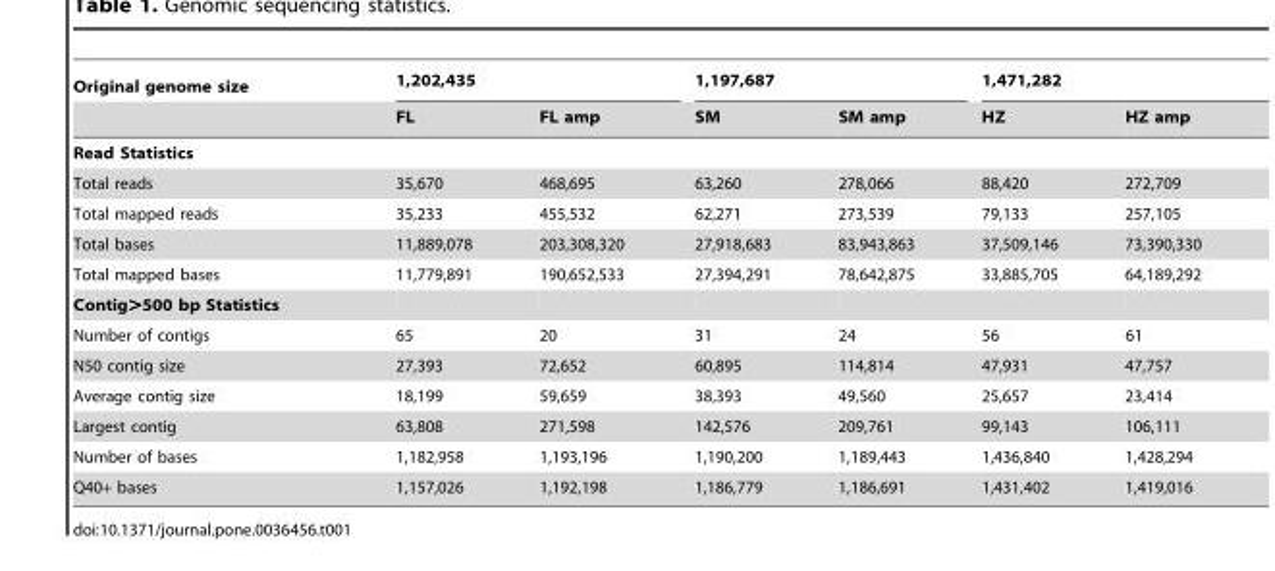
<table><thead><tr><td rowspan="2">Original genome size</td><td colspan="2">1,202,435</td><td colspan="2">1,197,687</td><td colspan="2">1,471,282</td></tr><tr><td>FL</td><td>FL amp</td><td>SM</td><td>SM amp</td><td>HZ</td><td>HZ amp</td></tr></thead><tbody><tr><td colspan="7">Read Statistics</td></tr><tr><td>Total reads</td><td>35,670</td><td>468,695</td><td>63,260</td><td>278,066</td><td>88,420</td><td>272,709</td></tr><tr><td>Total mapped reads</td><td>35,233</td><td>455,532</td><td>62,271</td><td>273,539</td><td>79,133</td><td>257,105</td></tr><tr><td>Total bases</td><td>11,889,078</td><td>203,308,320</td><td>27,918,683</td><td>83,943,863</td><td>37,509,146</td><td>73,390,330</td></tr><tr><td>Total mapped bases</td><td>11,779,891</td><td>190,652,533</td><td>27,394,291</td><td>78,642,875</td><td>33,885,705</td><td>64,189,292</td></tr><tr><td colspan="7">Contig&gt;500 bp Statistics</td></tr><tr><td>Number of contigs</td><td>65</td><td>20</td><td>31</td><td>24</td><td>56</td><td>61</td></tr><tr><td>N50 contig size</td><td>27,393</td><td>72,652</td><td>60,895</td><td>114,814</td><td>47,931</td><td>47,757</td></tr><tr><td>Average contig size</td><td>18,199</td><td>59,659</td><td>38,393</td><td>49,560</td><td>25,657</td><td>23,414</td></tr><tr><td>Largest contig</td><td>63,808</td><td>271,598</td><td>142,576</td><td>209,761</td><td>99,143</td><td>106,111</td></tr><tr><td>Number of bases</td><td>1,182,958</td><td>1,193,196</td><td>1,190,200</td><td>1,189,443</td><td>1,436,840</td><td>1,428,294</td></tr><tr><td>Q40+ bases</td><td>1,157,026</td><td>1,192,198</td><td>1,186,779</td><td>1,186,691</td><td>1,431,402</td><td>1,419,016</td></tr></tbody></table>